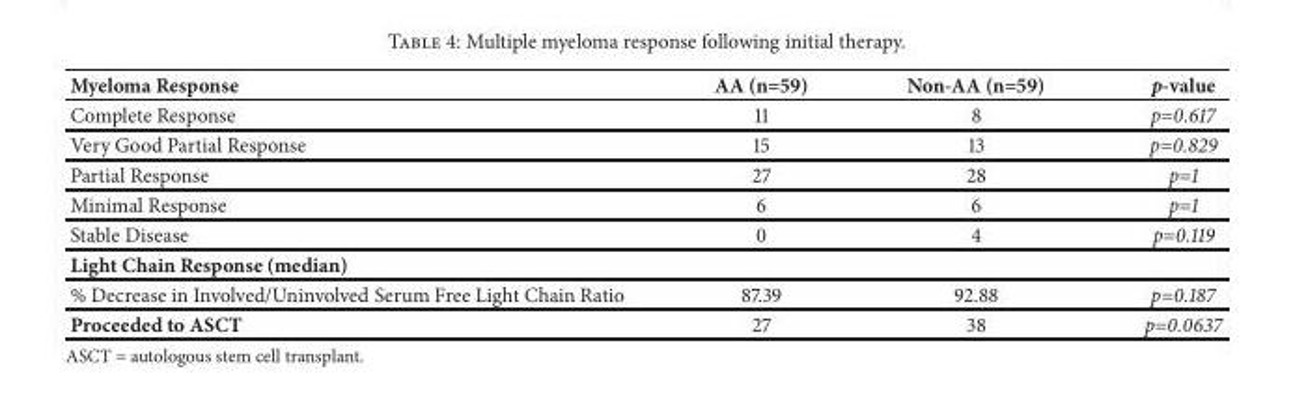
<table><thead><tr><td>Myeloma Response</td><td>AA (n=59)</td><td>Non-AA (n=59)</td><td>p-value</td></tr></thead><tbody><tr><td>Complete Response</td><td>11</td><td>8</td><td>p=0.617</td></tr><tr><td>Very Good Partial Response</td><td>15</td><td>13</td><td>p=0.829</td></tr><tr><td>Partial Response</td><td>27</td><td>28</td><td>p=1</td></tr><tr><td>Minimal Response</td><td>6</td><td>6</td><td>p=1</td></tr><tr><td>Stable Disease</td><td>0</td><td>4</td><td>p=0.119</td></tr><tr><td colspan="4">Light Chain Response (median)</td></tr><tr><td>% Decrease in Involved/Uninvolved Serum Free Light Chain Ratio</td><td>87.39</td><td>92.88</td><td>p=0.187</td></tr><tr><td>Proceeded to ASCT</td><td>27</td><td>38</td><td>p=0.0637</td></tr></tbody></table>